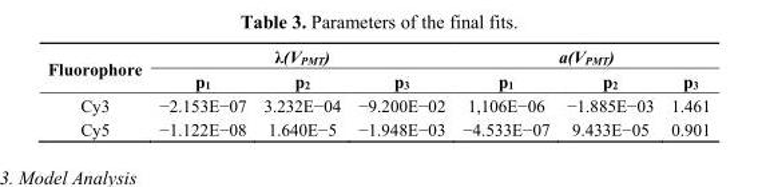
<table><thead><tr><td rowspan="2">Fluorophore</td><td colspan="3">λ(V<sub>PMT</sub>)</td><td colspan="3">a(V<sub>PMT</sub>)</td></tr><tr><td>p<sub>1</sub></td><td>p<sub>2</sub></td><td>p<sub>3</sub></td><td>p<sub>1</sub></td><td>p<sub>2</sub></td><td>p<sub>3</sub></td></tr></thead><tbody><tr><td>Cy3</td><td>−2.153E−07</td><td>3.232E−04</td><td>−9.200E−02</td><td>1,106E−06</td><td>−1.885E−03</td><td>1.461</td></tr><tr><td>Cy5</td><td>−1.122E−08</td><td>1.640E−5</td><td>−1.948E−03</td><td>−4.533E−07</td><td>9.433E−05</td><td>0.901</td></tr></tbody></table>